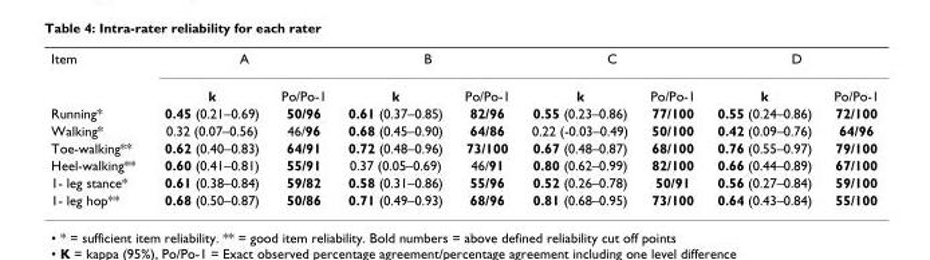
<table><tbody><tr><td rowspan="2">Item</td><td colspan="2">A</td><td colspan="2">B</td><td colspan="2">C</td><td colspan="2">D</td></tr><tr><td>k</td><td>Po/Po-1</td><td>k</td><td>Po/Po-1</td><td>k</td><td>Po/Po-1</td><td>k</td><td>Po/Po-1</td></tr><tr><td>Running*</td><td>0.45 (0.21–0.69)</td><td>50/96</td><td>0.61 (0.37–0.85)</td><td>82/96</td><td>0.55 (0.23–0.86)</td><td>77/100</td><td>0.55 (0.24–0.86)</td><td>72/100</td></tr><tr><td>Walking*</td><td>0.32 (0.07–0.56)</td><td>46/96</td><td>0.68 (0.45–0.90)</td><td>64/86</td><td>0.22 (-0.03–0.49)</td><td>50/100</td><td>0.42 (0.09–0.76)</td><td>64/96</td></tr><tr><td>Toe-walking**</td><td>0.62 (0.40–0.83)</td><td>64/91</td><td>0.72 (0.48–0.96)</td><td>73/100</td><td>0.67 (0.48–0.87)</td><td>68/100</td><td>0.76 (0.55–0.97)</td><td>79/100</td></tr><tr><td>Heel-walking**</td><td>0.60 (0.41–0.81)</td><td>55/91</td><td>0.37 (0.05–0.69)</td><td>46/91</td><td>0.80 (0.62–0.99)</td><td>82/100</td><td>0.66 (0.44–0.89)</td><td>67/100</td></tr><tr><td>1- leg stance*</td><td>0.61 (0.38–0.84)</td><td>59/82</td><td>0.58 (0.31–0.86)</td><td>55/96</td><td>0.52 (0.26–0.78)</td><td>50/91</td><td>0.56 (0.27–0.84)</td><td>59/100</td></tr><tr><td>1- leg hop**</td><td>0.68 (0.50–0.87)</td><td>50/86</td><td>0.71 (0.49–0.93)</td><td>68/96</td><td>0.81 (0.68–0.95)</td><td>73/100</td><td>0.64 (0.43–0.84)</td><td>55/100</td></tr></tbody></table>